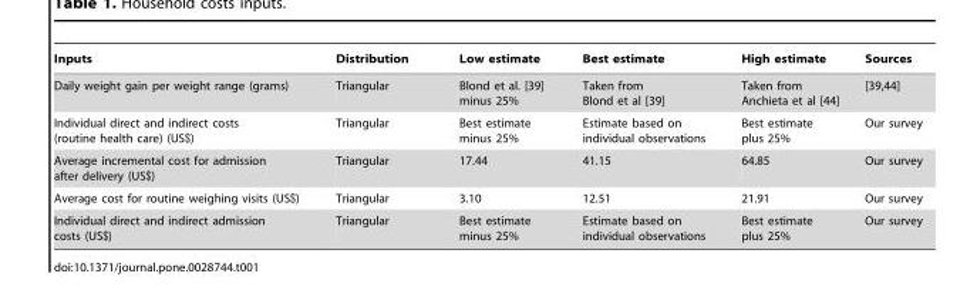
<table><thead><tr><td>Inputs</td><td>Distribution</td><td>Low estimate</td><td>Best estimate</td><td>High estimate</td><td>Sources</td></tr></thead><tbody><tr><td>Daily weight gain per weight range (grams)</td><td>Triangular</td><td>Blond et al. [39] minus 25%</td><td>Taken from Blond et al [39]</td><td>Taken from Anchieta et al [44]</td><td>[39,44]</td></tr><tr><td>Individual direct and indirect costs (routine health care) (US$)</td><td>Triangular</td><td>Best estimate minus 25%</td><td>Estimate based on individual observations</td><td>Best estimate plus 25%</td><td>Our survey</td></tr><tr><td>Average incremental cost for admission after delivery (US$)</td><td>Triangular</td><td>17.44</td><td>41.15</td><td>64.85</td><td>Our survey</td></tr><tr><td>Average cost for routine weighing visits (US$)</td><td>Triangular</td><td>3.10</td><td>12.51</td><td>21.91</td><td>Our survey</td></tr><tr><td>Individual direct and indirect admission costs (US$)</td><td>Triangular</td><td>Best estimate minus 25%</td><td>Estimate based on individual observations</td><td>Best estimate plus 25%</td><td>Our survey</td></tr></tbody></table>